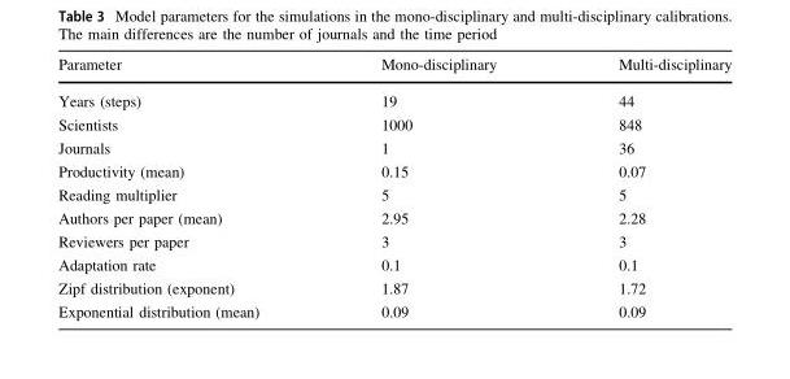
<table><thead><tr><td>Parameter</td><td>Mono-disciplinary</td><td>Multi-disciplinary</td></tr></thead><tbody><tr><td>Years (steps)</td><td>19</td><td>44</td></tr><tr><td>Scientists</td><td>1000</td><td>848</td></tr><tr><td>Journals</td><td>1</td><td>36</td></tr><tr><td>Productivity (mean)</td><td>0.15</td><td>0.07</td></tr><tr><td>Reading multiplier</td><td>5</td><td>5</td></tr><tr><td>Authors per paper (mean)</td><td>2.95</td><td>2.28</td></tr><tr><td>Reviewers per paper</td><td>3</td><td>3</td></tr><tr><td>Adaptation rate</td><td>0.1</td><td>0.1</td></tr><tr><td>Zipf distribution (exponent)</td><td>1.87</td><td>1.72</td></tr><tr><td>Exponential distribution (mean)</td><td>0.09</td><td>0.09</td></tr></tbody></table>